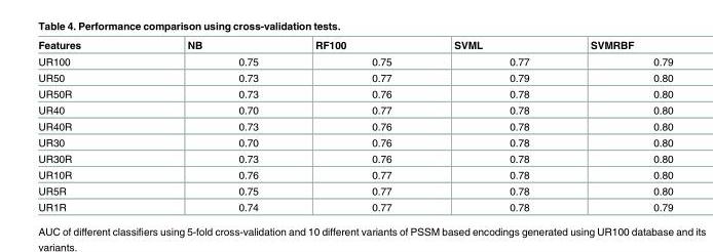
<table><thead><tr><td>Features</td><td>NB</td><td>RF100</td><td>SVML</td><td>SVMRBF</td></tr></thead><tbody><tr><td>UR100</td><td>0.75</td><td>0.75</td><td>0.77</td><td>0.79</td></tr><tr><td>UR50</td><td>0.73</td><td>0.77</td><td>0.79</td><td>0.80</td></tr><tr><td>UR50R</td><td>0.73</td><td>0.76</td><td>0.78</td><td>0.80</td></tr><tr><td>UR40</td><td>0.70</td><td>0.77</td><td>0.78</td><td>0.80</td></tr><tr><td>UR40R</td><td>0.73</td><td>0.76</td><td>0.78</td><td>0.80</td></tr><tr><td>UR30</td><td>0.70</td><td>0.76</td><td>0.78</td><td>0.80</td></tr><tr><td>UR30R</td><td>0.73</td><td>0.76</td><td>0.78</td><td>0.80</td></tr><tr><td>UR10R</td><td>0.76</td><td>0.77</td><td>0.78</td><td>0.80</td></tr><tr><td>UR5R</td><td>0.75</td><td>0.77</td><td>0.78</td><td>0.80</td></tr><tr><td>UR1R</td><td>0.74</td><td>0.77</td><td>0.78</td><td>0.79</td></tr></tbody></table>